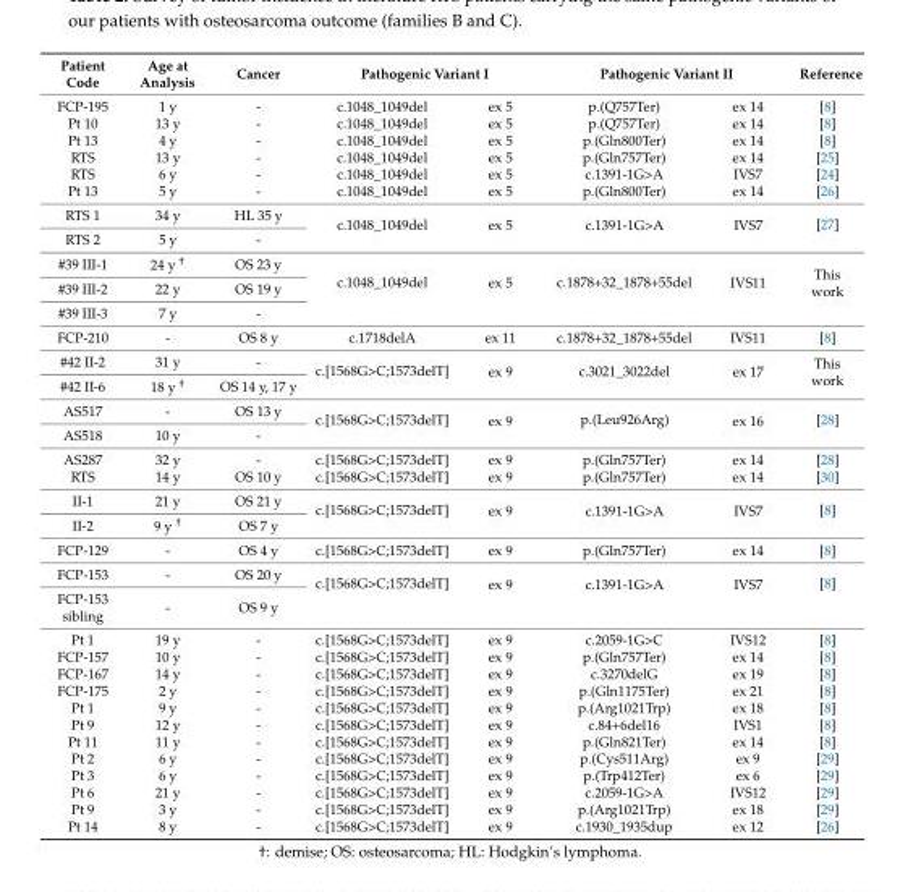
<table><thead><tr><td rowspan="2">Patient Code FCP-195</td><td rowspan="2">Age at Analysis 1 y</td><td rowspan="2">Cancer -</td><td colspan="2">Pathogenic Variant I</td><td colspan="2">Pathogenic Variant II</td><td rowspan="2">Reference [8]</td></tr><tr><td>c.1048_1049del</td><td>ex 5</td><td>p.(Q757Ter)</td><td>ex 14</td></tr></thead><tbody><tr><td>Pt 10</td><td>13 y</td><td>-</td><td>c.1048_1049del</td><td>ex 5</td><td>p.(Q757Ter)</td><td>ex 14</td><td>[8]</td></tr><tr><td>Pt 13</td><td>4 y</td><td>-</td><td>c.1048_1049del</td><td>ex 5</td><td>p.(Gln800Ter)</td><td>ex 14</td><td>[8]</td></tr><tr><td>RTS</td><td>13 y</td><td>-</td><td>c.1048_1049del</td><td>ex 5</td><td>p.(Gln757Ter)</td><td>ex 14</td><td>[25]</td></tr><tr><td>RTS</td><td>6 y</td><td>-</td><td>c.1048_1049del</td><td>ex 5</td><td>c.1391-1G&gt;A</td><td>IVS7</td><td>[24]</td></tr><tr><td>Pt 13</td><td>5 y</td><td>-</td><td>c.1048_1049del</td><td>ex 5</td><td>p.(Gln800Ter)</td><td>ex 14</td><td>[26]</td></tr><tr><td>RTS 1</td><td>34 y</td><td>HL 35 y</td><td rowspan="2">c.1048_1049del</td><td rowspan="2">ex 5</td><td rowspan="2">c.1391-1G&gt;A</td><td rowspan="2">IVS7</td><td rowspan="2">[27]</td></tr><tr><td>RTS 2</td><td>5 y</td><td>-</td></tr><tr><td>#39 III-1</td><td>24 y <sup>†</sup></td><td>OS 23 y</td><td rowspan="3">c.1048_1049del</td><td rowspan="3">ex 5</td><td rowspan="3">c.1878+32_1878+55del</td><td rowspan="3">IVS11</td><td rowspan="3">This work</td></tr><tr><td>#39 III-2</td><td>22 y</td><td>OS 19 y</td></tr><tr><td>#39 III-3</td><td>7 y</td><td>-</td></tr><tr><td>FCP-210</td><td>-</td><td>OS 8 y</td><td>c.1718delA</td><td>ex 11</td><td>c.1878+32_1878+55del</td><td>IVS11</td><td>[8]</td></tr><tr><td>#42 II-2</td><td>31 y</td><td>-</td><td rowspan="2">c.[1568G&gt;C;1573delT]</td><td rowspan="2">ex 9</td><td rowspan="2">c.3021_3022del</td><td rowspan="2">ex 17</td><td rowspan="2">This work</td></tr><tr><td>#42 II-6</td><td>18 y <sup>†</sup></td><td>OS 14 y, 17 y</td></tr><tr><td>AS517</td><td>-</td><td>OS 13 y</td><td rowspan="2">c.[1568G&gt;C;1573delT]</td><td rowspan="2">ex 9</td><td rowspan="2">p.(Leu926Arg)</td><td rowspan="2">ex 16</td><td rowspan="2">[28]</td></tr><tr><td>AS518</td><td>10 y</td><td>-</td></tr><tr><td>AS287</td><td>32 y</td><td>-</td><td>c.[1568G&gt;C;1573delT]</td><td>ex 9</td><td>p.(Gln757Ter)</td><td>ex 14</td><td>[28]</td></tr><tr><td>RTS</td><td>14 y</td><td>OS 10 y</td><td>c.[1568G&gt;C;1573delT]</td><td>ex 9</td><td>p.(Gln757Ter)</td><td>ex 14</td><td>[30]</td></tr><tr><td>II-1</td><td>21 y</td><td>OS 21 y</td><td rowspan="2">c.[1568G&gt;C;1573delT]</td><td rowspan="2">ex 9</td><td rowspan="2">c.1391-1G&gt;A</td><td rowspan="2">IVS7</td><td rowspan="2">[8]</td></tr><tr><td>II-2</td><td>9 y <sup>†</sup></td><td>OS 7 y</td></tr><tr><td>FCP-129</td><td>-</td><td>OS 4 y</td><td>c.[1568G&gt;C;1573delT]</td><td>ex 9</td><td>p.(Gln757Ter)</td><td>ex 14</td><td>[8]</td></tr><tr><td>FCP-153</td><td>-</td><td>OS 20 y</td><td rowspan="2">c.[1568G&gt;C;1573delT]</td><td rowspan="2">ex 9</td><td rowspan="2">c.1391-1G&gt;A</td><td rowspan="2">IVS7</td><td rowspan="2">[8]</td></tr><tr><td>FCP-153 sibling</td><td>-</td><td>OS 9 y</td></tr><tr><td>Pt 1</td><td>19 y</td><td>-</td><td>c.[1568G&gt;C;1573delT]</td><td>ex 9</td><td>c.2059-1G&gt;C</td><td>IVS12</td><td>[8]</td></tr><tr><td>FCP-157</td><td>10 y</td><td>-</td><td>c.[1568G&gt;C;1573delT]</td><td>ex 9</td><td>p.(Gln757Ter)</td><td>ex 14</td><td>[8]</td></tr><tr><td>FCP-167</td><td>14 y</td><td>-</td><td>c.[1568G&gt;C;1573delT]</td><td>ex 9</td><td>c.3270delG</td><td>ex 19</td><td>[8]</td></tr><tr><td>FCP-175</td><td>2 y</td><td>-</td><td>c.[1568G&gt;C;1573delT]</td><td>ex 9</td><td>p.(Gln1175Ter)</td><td>ex 21</td><td>[8]</td></tr><tr><td>Pt 1</td><td>9 y</td><td>-</td><td>c.[1568G&gt;C;1573delT]</td><td>ex 9</td><td>p.(Arg1021Trp)</td><td>ex 18</td><td>[8]</td></tr><tr><td>Pt 9</td><td>12 y</td><td>-</td><td>c.[1568G&gt;C;1573delT]</td><td>ex 9</td><td>c.84+6del16</td><td>IVS1</td><td>[8]</td></tr><tr><td>Pt 11</td><td>11 y</td><td>-</td><td>c.[1568G&gt;C;1573delT]</td><td>ex 9</td><td>p.(Gln821Ter)</td><td>ex 14</td><td>[8]</td></tr><tr><td>Pt 2</td><td>6 y</td><td>-</td><td>c.[1568G&gt;C;1573delT]</td><td>ex 9</td><td>p.(Cys511Arg)</td><td>ex 9</td><td>[29]</td></tr><tr><td>Pt 3</td><td>6 y</td><td>-</td><td>c.[1568G&gt;C;1573delT]</td><td>ex 9</td><td>p.(Trp412Ter)</td><td>ex 6</td><td>[29]</td></tr><tr><td>Pt 6</td><td>21 y</td><td>-</td><td>c.[1568G&gt;C;1573delT]</td><td>ex 9</td><td>c.2059-1G&gt;A</td><td>IVS12</td><td>[29]</td></tr><tr><td>Pt 9</td><td>3 y</td><td>-</td><td>c.[1568G&gt;C;1573delT]</td><td>ex 9</td><td>p.(Arg1021Trp)</td><td>ex 18</td><td>[29]</td></tr><tr><td>Pt 14</td><td>8 y</td><td>-</td><td>c.[1568G&gt;C;1573delT]</td><td>ex 9</td><td>c.1930_1935dup</td><td>ex 12</td><td>[26]</td></tr></tbody></table>